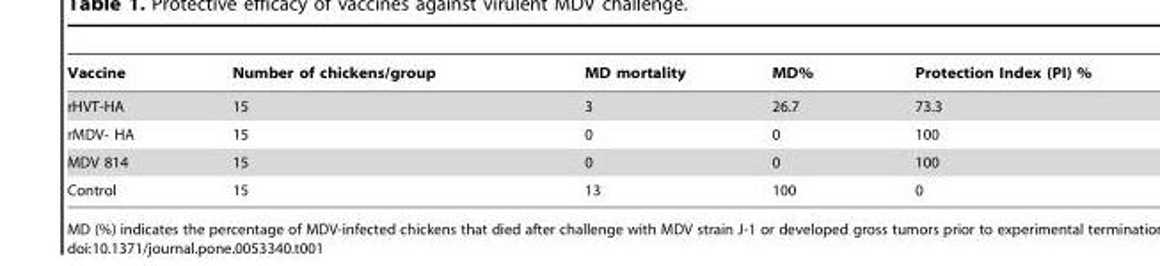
<table><thead><tr><td>Vaccine</td><td>Number of chickens/group</td><td>MD mortality</td><td>MD%</td><td>Protection Index (PI) %</td></tr></thead><tbody><tr><td>rHVT-HA</td><td>15</td><td>3</td><td>26.7</td><td>73.3</td></tr><tr><td>rMDV- HA</td><td>15</td><td>0</td><td>0</td><td>100</td></tr><tr><td>MDV 814</td><td>15</td><td>0</td><td>0</td><td>100</td></tr><tr><td>Control</td><td>15</td><td>13</td><td>100</td><td>0</td></tr></tbody></table>